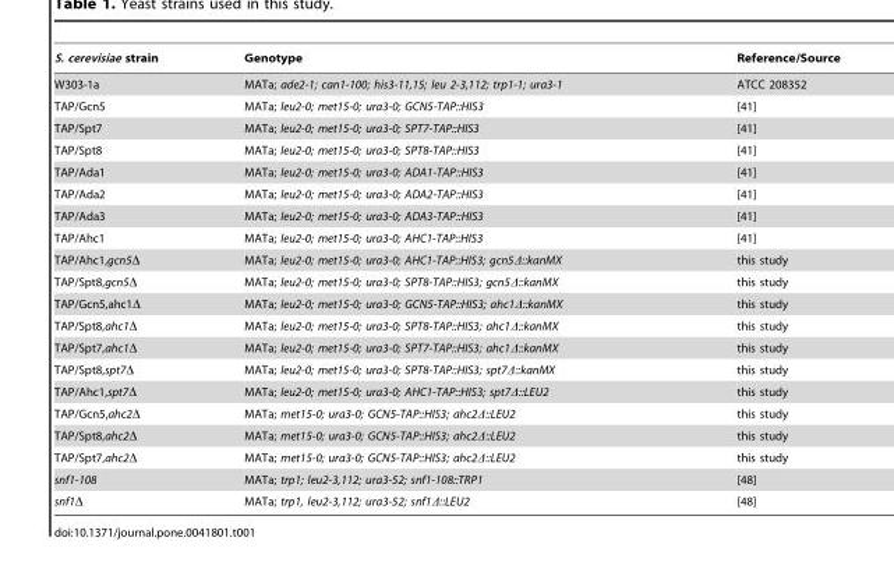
<table><thead><tr><td>S. cerevisiae strain</td><td>Genotype</td><td>Reference/Source</td></tr></thead><tbody><tr><td>W303-1a</td><td>MATa; ade2-1; can1-100; his3-11,15; leu 2-3,112; trp1-1; ura3-1</td><td>ATCC 208352</td></tr><tr><td>TAP/Gcn5</td><td>MATa; leu2-0; met15-0; ura3-0; GCN5-TAP::HIS3</td><td>[41]</td></tr><tr><td>TAP/Spt7</td><td>MATa; leu2-0; met15-0; ura3-0; SPT7-TAP::HIS3</td><td>[41]</td></tr><tr><td>TAP/Spt8</td><td>MATa; leu2-0; met15-0; ura3-0; SPT8-TAP::HIS3</td><td>[41]</td></tr><tr><td>TAP/Ada1</td><td>MATa; leu2-0; met15-0; ura3-0; ADA1-TAP::HIS3</td><td>[41]</td></tr><tr><td>TAP/Ada2</td><td>MATa; leu2-0; met15-0; ura3-0; ADA2-TAP::HIS3</td><td>[41]</td></tr><tr><td>TAP/Ada3</td><td>MATa; leu2-0; met15-0; ura3-0; ADA3-TAP::HIS3</td><td>[41]</td></tr><tr><td>TAP/Ahc1</td><td>MATa; leu2-0; met15-0; ura3-0; AHC1-TAP::HIS3</td><td>[41]</td></tr><tr><td>TAP/Ahc1,gcn5Δ</td><td>MATa; leu2-0; met15-0; ura3-0; AHC1-TAP::HIS3; gcn5Δ::kanMX</td><td>this study</td></tr><tr><td>TAP/Spt8,gcn5Δ</td><td>MATa; leu2-0; met15-0; ura3-0; SPT8-TAP::HIS3; gcn5Δ::kanMX</td><td>this study</td></tr><tr><td>TAP/Gcn5,ahc1Δ</td><td>MATa; leu2-0; met15-0; ura3-0; GCN5-TAP::HIS3; ahc1Δ::kanMX</td><td>this study</td></tr><tr><td>TAP/Spt8,ahc1Δ</td><td>MATa; leu2-0; met15-0; ura3-0; SPT8-TAP::HIS3; ahc1Δ::kanMX</td><td>this study</td></tr><tr><td>TAP/Spt7,ahc1Δ</td><td>MATa; leu2-0; met15-0; ura3-0; SPT7-TAP::HIS3; ahc1Δ::kanMX</td><td>this study</td></tr><tr><td>TAP/Spt8,spt7Δ</td><td>MATa; leu2-0; met15-0; ura3-0; SPT8-TAP::HIS3; spt7Δ::kanMX</td><td>this study</td></tr><tr><td>TAP/Ahc1,spt7Δ</td><td>MATa; leu2-0; met15-0; ura3-0; AHC1-TAP::HIS3; spt7Δ::LEU2</td><td>this study</td></tr><tr><td>TAP/Gcn5,ahc2Δ</td><td>MATa; met15-0; ura3-0; GCN5-TAP::HIS3; ahc2Δ::LEU2</td><td>this study</td></tr><tr><td>TAP/Spt8,ahc2Δ</td><td>MATa; met15-0; ura3-0; GCN5-TAP::HIS3; ahc2Δ::LEU2</td><td>this study</td></tr><tr><td>TAP/Spt7,ahc2Δ</td><td>MATa; met15-0; ura3-0; GCN5-TAP::HIS3; ahc2Δ::LEU2</td><td>this study</td></tr><tr><td>snf1-108</td><td>MATa; trp1; leu2-3,112; ura3-52; snf1-108::TRP1</td><td>[48]</td></tr><tr><td>snf1Δ</td><td>MATa; trp1, leu2-3,112; ura3-52; snf1Δ::LEU2</td><td>[48]</td></tr></tbody></table>